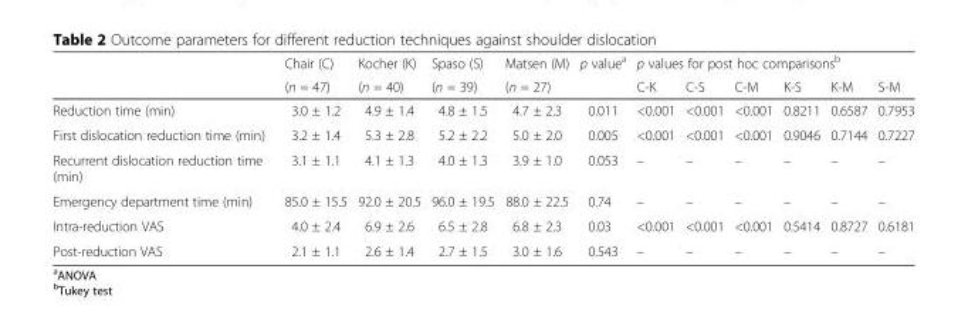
<table><thead><tr><td rowspan="2"></td><td rowspan="2">Chair (C) (n = 47)</td><td rowspan="2">Kocher (K) (n = 40)</td><td rowspan="2">Spaso (S) (n = 39)</td><td rowspan="2">Matsen (M) (n = 27)</td><td rowspan="2">p value<sup>a</sup></td><td colspan="6">p values for post hoc comparisons<sup>b</sup></td></tr><tr><td>C-K</td><td>C-S</td><td>C-M</td><td>K-S</td><td>K-M</td><td>S-M</td></tr></thead><tbody><tr><td>Reduction time (min)</td><td>3.0 ± 1.2</td><td>4.9 ± 1.4</td><td>4.8 ± 1.5</td><td>4.7 ± 2.3</td><td>0.011</td><td>&lt;0.001</td><td>&lt;0.001</td><td>&lt;0.001</td><td>0.8211</td><td>0.6587</td><td>0.7953</td></tr><tr><td>First dislocation reduction time (min)</td><td>3.2 ± 1.4</td><td>5.3 ± 2.8</td><td>5.2 ± 2.2</td><td>5.0 ± 2.0</td><td>0.005</td><td>&lt;0.001</td><td>&lt;0.001</td><td>&lt;0.001</td><td>0.9046</td><td>0.7144</td><td>0.7227</td></tr><tr><td>Recurrent dislocation reduction time (min)</td><td>3.1 ± 1.1</td><td>4.1 ± 1.3</td><td>4.0 ± 1.3</td><td>3.9 ± 1.0</td><td>0.053</td><td>–</td><td>–</td><td>–</td><td>–</td><td>–</td><td>–</td></tr><tr><td>Emergency department time (min)</td><td>85.0 ± 15.5</td><td>92.0 ± 20.5</td><td>96.0 ± 19.5</td><td>88.0 ± 22.5</td><td>0.74</td><td>–</td><td>–</td><td>–</td><td>–</td><td>–</td><td>–</td></tr><tr><td>Intra-reduction VAS</td><td>4.0 ± 2.4</td><td>6.9 ± 2.6</td><td>6.5 ± 2.8</td><td>6.8 ± 2.3</td><td>0.03</td><td>&lt;0.001</td><td>&lt;0.001</td><td>&lt;0.001</td><td>0.5414</td><td>0.8727</td><td>0.6181</td></tr><tr><td>Post-reduction VAS</td><td>2.1 ± 1.1</td><td>2.6 ± 1.4</td><td>2.7 ± 1.5</td><td>3.0 ± 1.6</td><td>0.543</td><td>–</td><td>–</td><td>–</td><td>–</td><td>–</td><td>–</td></tr></tbody></table>